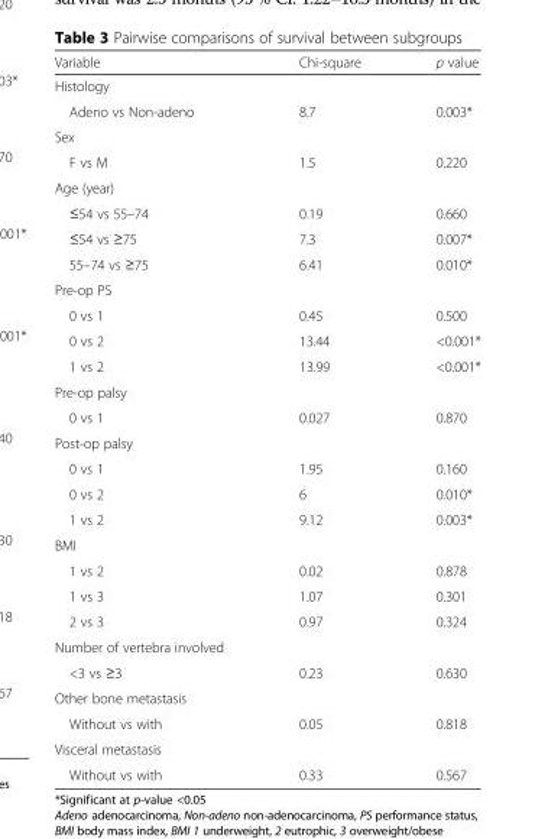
<table><thead><tr><td>Variable</td><td>Chi-square</td><td>p value</td></tr></thead><tbody><tr><td colspan="3">Histology</td></tr><tr><td>Adeno vs Non-adeno</td><td>8.7</td><td>0.003*</td></tr><tr><td colspan="3">Sex</td></tr><tr><td>F vs M</td><td>1.5</td><td>0.220</td></tr><tr><td colspan="3">Age (year)</td></tr><tr><td>≤54 vs 55–74</td><td>0.19</td><td>0.660</td></tr><tr><td>≤54 vs ≥75</td><td>7.3</td><td>0.007*</td></tr><tr><td>55–74 vs ≥75</td><td>6.41</td><td>0.010*</td></tr><tr><td colspan="3">Pre-op PS</td></tr><tr><td>0 vs 1</td><td>0.45</td><td>0.500</td></tr><tr><td>0 vs 2</td><td>13.44</td><td>&lt;0.001*</td></tr><tr><td>1 vs 2</td><td>13.99</td><td>&lt;0.001*</td></tr><tr><td colspan="3">Pre-op palsy</td></tr><tr><td>0 vs 1</td><td>0.027</td><td>0.870</td></tr><tr><td colspan="3">Post-op palsy</td></tr><tr><td>0 vs 1</td><td>1.95</td><td>0.160</td></tr><tr><td>0 vs 2</td><td>6</td><td>0.010*</td></tr><tr><td>1 vs 2</td><td>9.12</td><td>0.003*</td></tr><tr><td colspan="3">BMI</td></tr><tr><td>1 vs 2</td><td>0.02</td><td>0.878</td></tr><tr><td>1 vs 3</td><td>1.07</td><td>0.301</td></tr><tr><td>2 vs 3</td><td>0.97</td><td>0.324</td></tr><tr><td colspan="3">Number of vertebra involved</td></tr><tr><td>&lt;3 vs ≥3</td><td>0.23</td><td>0.630</td></tr><tr><td colspan="3">Other bone metastasis</td></tr><tr><td>Without vs with</td><td>0.05</td><td>0.818</td></tr><tr><td colspan="3">Visceral metastasis</td></tr><tr><td>Without vs with</td><td>0.33</td><td>0.567</td></tr></tbody></table>